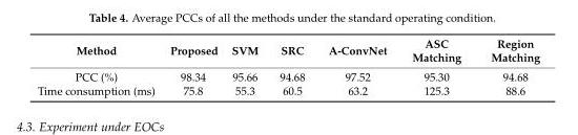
<table><thead><tr><td>Method</td><td>Proposed</td><td>SVM</td><td>SRC</td><td>A-ConvNet</td><td>ASC Matching</td><td>Region Matching</td></tr></thead><tbody><tr><td>PCC (%)</td><td>98.34</td><td>95.66</td><td>94.68</td><td>97.52</td><td>95.30</td><td>94.68</td></tr><tr><td>Time consumption (ms)</td><td>75.8</td><td>55.3</td><td>60.5</td><td>63.2</td><td>125.3</td><td>88.6</td></tr></tbody></table>